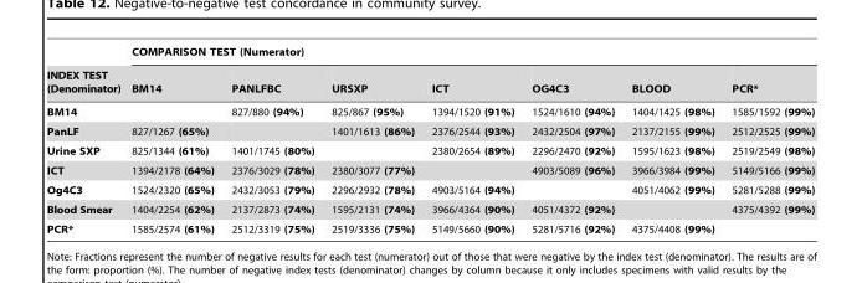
<table><thead><tr><td rowspan="2">INDEX TEST (Denominator)</td><td colspan="7">COMPARISON TEST (Numerator)</td></tr><tr><td>BM14</td><td>PANLFBC</td><td>URSXP</td><td>ICT</td><td>OG4C3</td><td>BLOOD</td><td>PCR*</td></tr></thead><tbody><tr><td>BM14</td><td></td><td>827/880 (94%)</td><td>825/867 (95%)</td><td>1394/1520 (91%)</td><td>1524/1610 (94%)</td><td>1404/1425 (98%)</td><td>1585/1592 (99%)</td></tr><tr><td>PanLF</td><td>827/1267 (65%)</td><td></td><td>1401/1613 (86%)</td><td>2376/2544 (93%)</td><td>2432/2504 (97%)</td><td>2137/2155 (99%)</td><td>2512/2525 (99%)</td></tr><tr><td>Urine SXP</td><td>825/1344 (61%)</td><td>1401/1745 (80%)</td><td></td><td>2380/2654 (89%)</td><td>2296/2470 (92%)</td><td>1595/1623 (98%)</td><td>2519/2549 (98%)</td></tr><tr><td>ICT</td><td>1394/2178 (64%)</td><td>2376/3029 (78%)</td><td>2380/3077 (77%)</td><td></td><td>4903/5089 (96%)</td><td>3966/3984 (99%)</td><td>5149/5166 (99%)</td></tr><tr><td>Og4C3</td><td>1524/2320 (65%)</td><td>2432/3053 (79%)</td><td>2296/2932 (78%)</td><td>4903/5164 (94%)</td><td></td><td>4051/4062 (99%)</td><td>5281/5288 (99%)</td></tr><tr><td>Blood Smear</td><td>1404/2254 (62%)</td><td>2137/2873 (74%)</td><td>1595/2131 (74%)</td><td>3966/4364 (90%)</td><td>4051/4372 (92%)</td><td></td><td>4375/4392 (99%)</td></tr><tr><td>PCR*</td><td>1585/2574 (61%)</td><td>2512/3319 (75%)</td><td>2519/3336 (75%)</td><td>5149/5660 (90%)</td><td>5281/5716 (92%)</td><td>4375/4408 (99%)</td><td></td></tr></tbody></table>